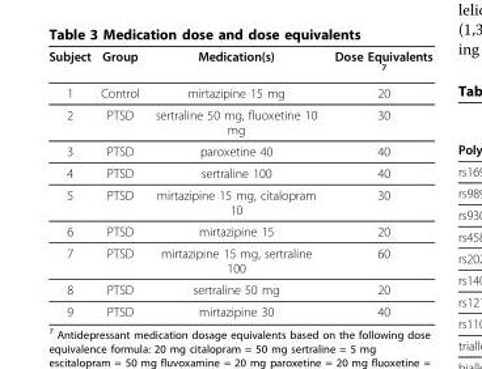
<table><thead><tr><td>Subject</td><td>Group</td><td>Medication(s)</td><td>Dose Equivalents <sup>7</sup></td></tr></thead><tbody><tr><td>1</td><td>Control</td><td>mirtazipine 15 mg</td><td>20</td></tr><tr><td>2</td><td>PTSD</td><td>sertraline 50 mg, fluoxetine 10 mg</td><td>30</td></tr><tr><td>3</td><td>PTSD</td><td>paroxetine 40</td><td>40</td></tr><tr><td>4</td><td>PTSD</td><td>sertraline 100</td><td>40</td></tr><tr><td>5</td><td>PTSD</td><td>mirtazipine 15 mg, citalopram 10</td><td>30</td></tr><tr><td>6</td><td>PTSD</td><td>mirtazipine 15</td><td>20</td></tr><tr><td>7</td><td>PTSD</td><td>mirtazipine 15 mg, sertraline 100</td><td>60</td></tr><tr><td>8</td><td>PTSD</td><td>sertraline 50 mg</td><td>20</td></tr><tr><td>9</td><td>PTSD</td><td>mirtazipine 30</td><td>40</td></tr></tbody></table>